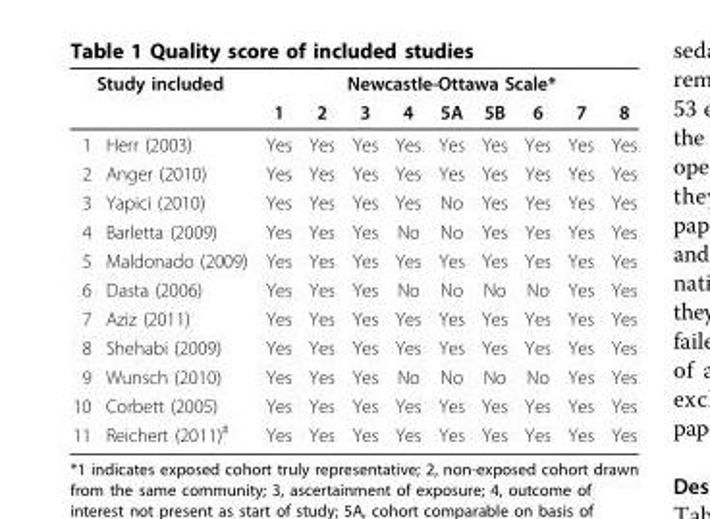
<table><thead><tr><td colspan="2">Study included</td><td colspan="9">Newcastle-Ottawa Scale*</td></tr><tr><td></td><td></td><td>1</td><td>2</td><td>3</td><td>4</td><td>5A</td><td>5B</td><td>6</td><td>7</td><td>8</td></tr></thead><tbody><tr><td>1</td><td>Herr (2003)</td><td>Yes</td><td>Yes</td><td>Yes</td><td>Yes</td><td>Yes</td><td>Yes</td><td>Yes</td><td>Yes</td><td>Yes</td></tr><tr><td>2</td><td>Anger (2010)</td><td>Yes</td><td>Yes</td><td>Yes</td><td>Yes</td><td>Yes</td><td>Yes</td><td>Yes</td><td>Yes</td><td>Yes</td></tr><tr><td>3</td><td>Yapici (2010)</td><td>Yes</td><td>Yes</td><td>Yes</td><td>Yes</td><td>No</td><td>Yes</td><td>Yes</td><td>Yes</td><td>Yes</td></tr><tr><td>4</td><td>Barletta (2009)</td><td>Yes</td><td>Yes</td><td>Yes</td><td>No</td><td>No</td><td>Yes</td><td>Yes</td><td>Yes</td><td>Yes</td></tr><tr><td>5</td><td>Maldonado (2009)</td><td>Yes</td><td>Yes</td><td>Yes</td><td>Yes</td><td>Yes</td><td>Yes</td><td>Yes</td><td>Yes</td><td>Yes</td></tr><tr><td>6</td><td>Dasta (2006)</td><td>Yes</td><td>Yes</td><td>Yes</td><td>No</td><td>No</td><td>No</td><td>No</td><td>Yes</td><td>Yes</td></tr><tr><td>7</td><td>Aziz (2011)</td><td>Yes</td><td>Yes</td><td>Yes</td><td>Yes</td><td>Yes</td><td>Yes</td><td>Yes</td><td>Yes</td><td>Yes</td></tr><tr><td>8</td><td>Shehabi (2009)</td><td>Yes</td><td>Yes</td><td>Yes</td><td>Yes</td><td>Yes</td><td>Yes</td><td>Yes</td><td>Yes</td><td>Yes</td></tr><tr><td>9</td><td>Wunsch (2010)</td><td>Yes</td><td>Yes</td><td>Yes</td><td>No</td><td>No</td><td>No</td><td>No</td><td>Yes</td><td>Yes</td></tr><tr><td>10</td><td>Corbett (2005)</td><td>Yes</td><td>Yes</td><td>Yes</td><td>Yes</td><td>Yes</td><td>Yes</td><td>Yes</td><td>Yes</td><td>Yes</td></tr><tr><td>11</td><td>Reichert (2011)<sup>#</sup></td><td>Yes</td><td>Yes</td><td>Yes</td><td>Yes</td><td>Yes</td><td>Yes</td><td>Yes</td><td>Yes</td><td>Yes</td></tr></tbody></table>